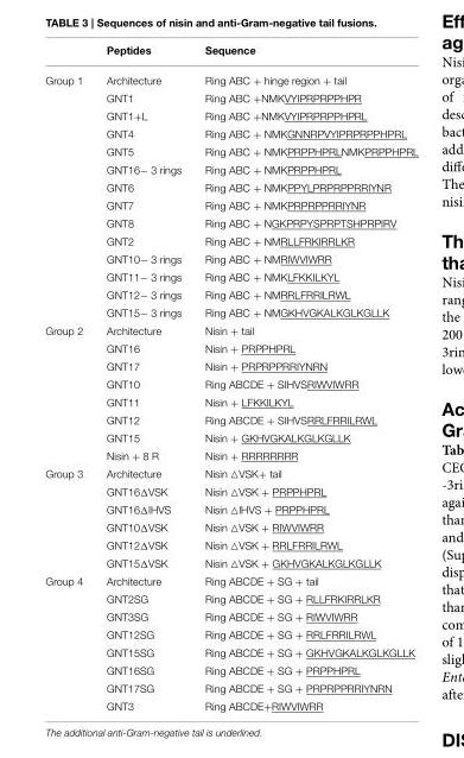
<table><thead><tr><td></td><td>Peptides</td><td>Sequence</td></tr></thead><tbody><tr><td rowspan="14">Group 1</td><td>Architecture</td><td>Ring ABC + hinge region + tail</td></tr><tr><td>GNT1</td><td>Ring ABC +NMKVYIPRPRPPHPR</td></tr><tr><td>GNT1+L</td><td>Ring ABC +NMKVYIPRPRPPHPRL</td></tr><tr><td>GNT4</td><td>Ring ABC + NMKGNNRPVYIPRPRPPHPRL</td></tr><tr><td>GNT5</td><td>Ring ABC + NMKPRPPHPRLNMKPRPPHPRL</td></tr><tr><td>GNT16− 3 rings</td><td>Ring ABC + NMKPRPPHPRL</td></tr><tr><td>GNT6</td><td>Ring ABC + NMKPPYLPRPRPPRRIYNR</td></tr><tr><td>GNT7</td><td>Ring ABC + NMKPRPRPPRRIYNR</td></tr><tr><td>GNT8</td><td>Ring ABC + NGKPRPYSPRPTSHPRPIRV</td></tr><tr><td>GNT2</td><td>Ring ABC + NMRLLFRKIRRLKR</td></tr><tr><td>GNT10− 3 rings</td><td>Ring ABC + NMRIWVIWRR</td></tr><tr><td>GNT11− 3 rings</td><td>Ring ABC + NMKLFKKILKYL</td></tr><tr><td>GNT12− 3 rings</td><td>Ring ABC + NMRRLFRRILRWL</td></tr><tr><td>GNT15− 3 rings</td><td>Ring ABC + NMGKHVGKALKGLKGLLK</td></tr><tr><td rowspan="8">Group 2</td><td>Architecture</td><td>Nisin + tail</td></tr><tr><td>GNT16</td><td>Nisin + PRPPHPRL</td></tr><tr><td>GNT17</td><td>Nisin + PRPRPPRRIYNRN</td></tr><tr><td>GNT10</td><td>Ring ABCDE + SIHVSRIWVIWRR</td></tr><tr><td>GNT11</td><td>Nisin + LFKKILKYL</td></tr><tr><td>GNT12</td><td>Ring ABCDE + SIHVSRRLFRRILRWL</td></tr><tr><td>GNT15</td><td>Nisin + GKHVGKALKGLKGLLK</td></tr><tr><td>Nisin + 8 R</td><td>Nisin + RRRRRRRR</td></tr><tr><td rowspan="6">Group 3</td><td>Architecture</td><td>Nisin △VSK+ tail</td></tr><tr><td>GNT16ΔVSK</td><td>Nisin △VSK + PRPPHPRL</td></tr><tr><td>GNT16ΔIHVS</td><td>Nisin △IHVS + PRPPHPRL</td></tr><tr><td>GNT10ΔVSK</td><td>Nisin △VSK + RIWVIWRR</td></tr><tr><td>GNT12ΔVSK</td><td>Nisin △VSK + RRLFRRILRWL</td></tr><tr><td>GNT15ΔVSK</td><td>Nisin △VSK + GKHVGKALKGLKGLLK</td></tr><tr><td rowspan="8">Group 4</td><td>Architecture</td><td>Ring ABCDE + SG + tail</td></tr><tr><td>GNT2SG</td><td>Ring ABCDE + SG + RLLFRKIRRLKR</td></tr><tr><td>GNT3SG</td><td>Ring ABCDE + SG + RIWVIWRR</td></tr><tr><td>GNT12SG</td><td>Ring ABCDE + SG + RRLFRRILRWL</td></tr><tr><td>GNT15SG</td><td>Ring ABCDE + SG + GKHVGKALKGLKGLLK</td></tr><tr><td>GNT16SG</td><td>Ring ABCDE + SG + PRPPHPRL</td></tr><tr><td>GNT17SG</td><td>Ring ABCDE + SG + PRPRPPRRIYNRN</td></tr><tr><td>GNT3</td><td>Ring ABCDE+RIWVIWRR</td></tr></tbody></table>